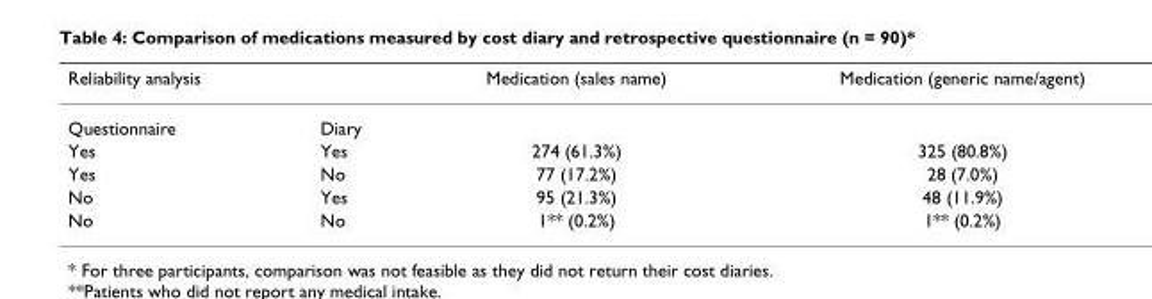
<table><thead><tr><td>Reliability analysis</td><td></td><td>Medication (sales name)</td><td>Medication (generic name/agent)</td></tr></thead><tbody><tr><td>Questionnaire</td><td>Diary</td><td></td><td></td></tr><tr><td>Yes</td><td>Yes</td><td>274 (61.3%)</td><td>325 (80.8%)</td></tr><tr><td>Yes</td><td>No</td><td>77 (17.2%)</td><td>28 (7.0%)</td></tr><tr><td>No</td><td>Yes</td><td>95 (21.3%)</td><td>48 (11.9%)</td></tr><tr><td>No</td><td>No</td><td>1** (0.2%)</td><td>1** (0.2%)</td></tr></tbody></table>